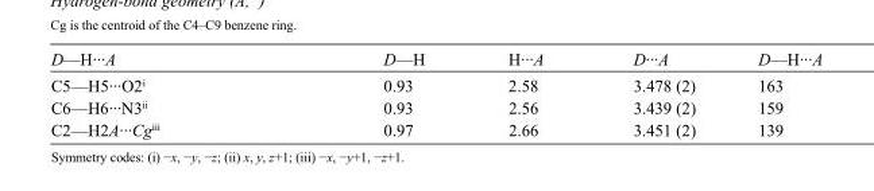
<table><tbody><tr><td>D—H···A</td><td>D—H</td><td>H···A</td><td>D···A</td><td>D—H···A</td></tr><tr><td>C5—H5···O2<sup>i</sup></td><td>0.93</td><td>2.58</td><td>3.478 (2)</td><td>163</td></tr><tr><td>C6—H6···N3<sup>ii</sup></td><td>0.93</td><td>2.56</td><td>3.439 (2)</td><td>159</td></tr><tr><td>C2—H2A···Cg<sup>iii</sup></td><td>0.97</td><td>2.66</td><td>3.451 (2)</td><td>139</td></tr></tbody></table>